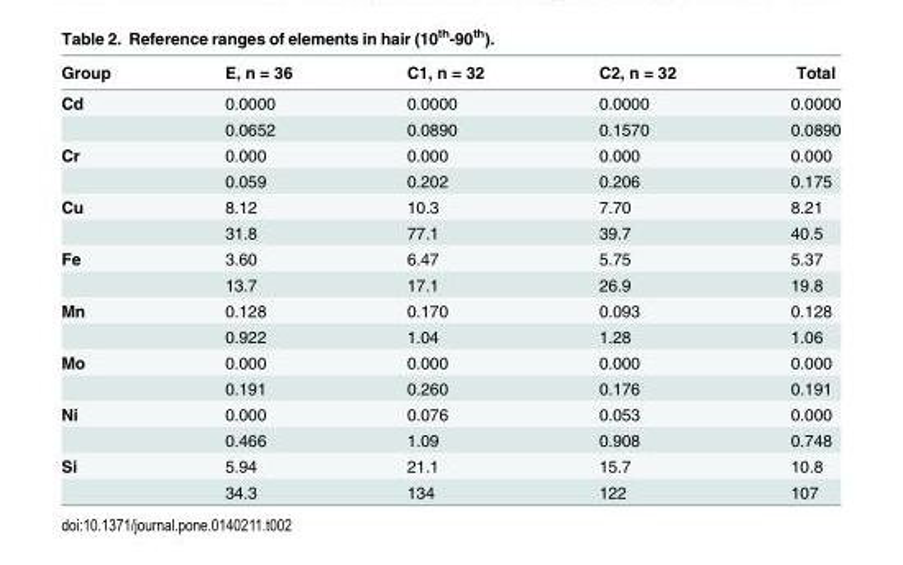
<table><thead><tr><td>Group</td><td>E, n = 36</td><td>C1, n = 32</td><td>C2, n = 32</td><td>Total</td></tr></thead><tbody><tr><td rowspan="2">Cd</td><td>0.0000</td><td>0.0000</td><td>0.0000</td><td>0.0000</td></tr><tr><td>0.0652</td><td>0.0890</td><td>0.1570</td><td>0.0890</td></tr><tr><td rowspan="2">Cr</td><td>0.000</td><td>0.000</td><td>0.000</td><td>0.000</td></tr><tr><td>0.059</td><td>0.202</td><td>0.206</td><td>0.175</td></tr><tr><td rowspan="2">Cu</td><td>8.12</td><td>10.3</td><td>7.70</td><td>8.21</td></tr><tr><td>31.8</td><td>77.1</td><td>39.7</td><td>40.5</td></tr><tr><td rowspan="2">Fe</td><td>3.60</td><td>6.47</td><td>5.75</td><td>5.37</td></tr><tr><td>13.7</td><td>17.1</td><td>26.9</td><td>19.8</td></tr><tr><td rowspan="2">Mn</td><td>0.128</td><td>0.170</td><td>0.093</td><td>0.128</td></tr><tr><td>0.922</td><td>1.04</td><td>1.28</td><td>1.06</td></tr><tr><td rowspan="2">Mo</td><td>0.000</td><td>0.000</td><td>0.000</td><td>0.000</td></tr><tr><td>0.191</td><td>0.260</td><td>0.176</td><td>0.191</td></tr><tr><td rowspan="2">Ni</td><td>0.000</td><td>0.076</td><td>0.053</td><td>0.000</td></tr><tr><td>0.466</td><td>1.09</td><td>0.908</td><td>0.748</td></tr><tr><td rowspan="2">Si</td><td>5.94</td><td>21.1</td><td>15.7</td><td>10.8</td></tr><tr><td>34.3</td><td>134</td><td>122</td><td>107</td></tr></tbody></table>